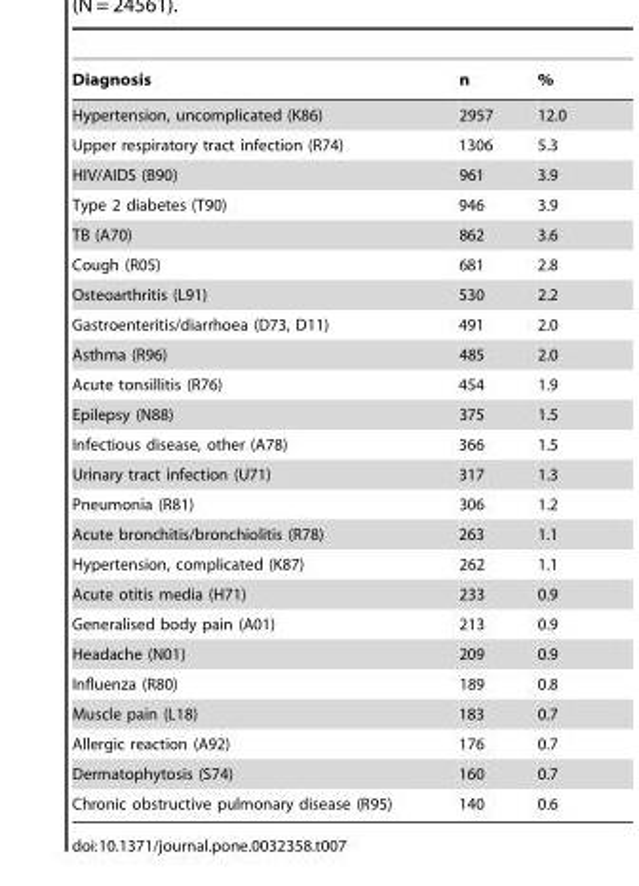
<table><thead><tr><td>Diagnosis</td><td>n</td><td>%</td></tr></thead><tbody><tr><td>Hypertension, uncomplicated (K86)</td><td>2957</td><td>12.0</td></tr><tr><td>Upper respiratory tract infection (R74)</td><td>1306</td><td>5.3</td></tr><tr><td>HIV/AIDS (B90)</td><td>961</td><td>3.9</td></tr><tr><td>Type 2 diabetes (T90)</td><td>946</td><td>3.9</td></tr><tr><td>TB (A70)</td><td>862</td><td>3.6</td></tr><tr><td>Cough (R05)</td><td>681</td><td>2.8</td></tr><tr><td>Osteoarthritis (L91)</td><td>530</td><td>2.2</td></tr><tr><td>Gastroenteritis/diarrhoea (D73, D11)</td><td>491</td><td>2.0</td></tr><tr><td>Asthma (R96)</td><td>485</td><td>2.0</td></tr><tr><td>Acute tonsillitis (R76)</td><td>454</td><td>1.9</td></tr><tr><td>Epilepsy (N88)</td><td>375</td><td>1.5</td></tr><tr><td>Infectious disease, other (A78)</td><td>366</td><td>1.5</td></tr><tr><td>Urinary tract infection (U71)</td><td>317</td><td>1.3</td></tr><tr><td>Pneumonia (R81)</td><td>306</td><td>1.2</td></tr><tr><td>Acute bronchitis/bronchiolitis (R78)</td><td>263</td><td>1.1</td></tr><tr><td>Hypertension, complicated (K87)</td><td>262</td><td>1.1</td></tr><tr><td>Acute otitis media (H71)</td><td>233</td><td>0.9</td></tr><tr><td>Generalised body pain (A01)</td><td>213</td><td>0.9</td></tr><tr><td>Headache (N01)</td><td>209</td><td>0.9</td></tr><tr><td>Influenza (R80)</td><td>189</td><td>0.8</td></tr><tr><td>Muscle pain (L18)</td><td>183</td><td>0.7</td></tr><tr><td>Allergic reaction (A92)</td><td>176</td><td>0.7</td></tr><tr><td>Dermatophytosis (S74)</td><td>160</td><td>0.7</td></tr><tr><td>Chronic obstructive pulmonary disease (R95)</td><td>140</td><td>0.6</td></tr></tbody></table>